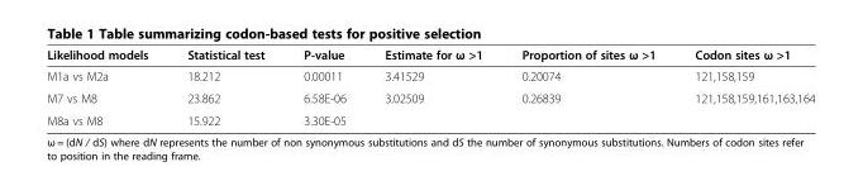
<table><thead><tr><td>Likelihood models</td><td>Statistical test</td><td>P-value</td><td>Estimate for ω &gt;1</td><td>Proportion of sites ω &gt;1</td><td>Codon sites ω &gt;1</td></tr></thead><tbody><tr><td>M1a vs M2a</td><td>18.212</td><td>0.00011</td><td>3.41529</td><td>0.20074</td><td>121,158,159</td></tr><tr><td>M7 vs M8</td><td>23.862</td><td>6.58E-06</td><td>3.02509</td><td>0.26839</td><td>121,158,159,161,163,164</td></tr><tr><td>M8a vs M8</td><td>15.922</td><td>3.30E-05</td><td></td><td></td><td></td></tr></tbody></table>